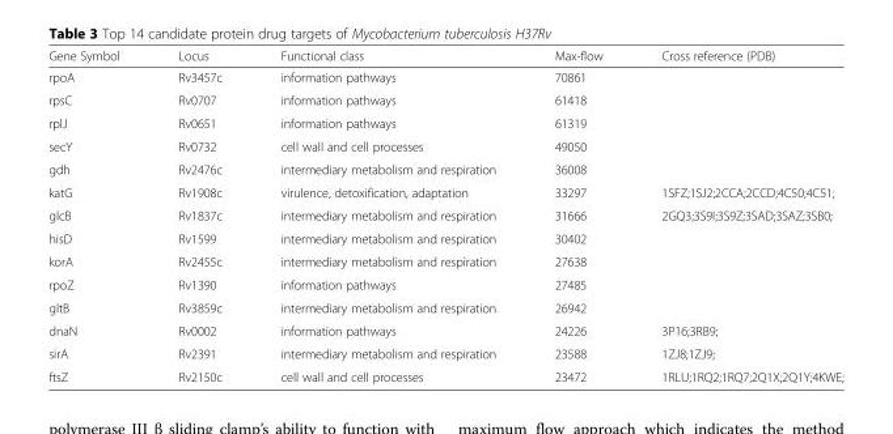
<table><thead><tr><td>Gene Symbol</td><td>Locus</td><td>Functional class</td><td>Max-flow</td><td>Cross reference (PDB)</td></tr></thead><tbody><tr><td>rpoA</td><td>Rv3457c</td><td>information pathways</td><td>70861</td><td></td></tr><tr><td>rpsC</td><td>Rv0707</td><td>information pathways</td><td>61418</td><td></td></tr><tr><td>rplJ</td><td>Rv0651</td><td>information pathways</td><td>61319</td><td></td></tr><tr><td>secY</td><td>Rv0732</td><td>cell wall and cell processes</td><td>49050</td><td></td></tr><tr><td>gdh</td><td>Rv2476c</td><td>intermediary metabolism and respiration</td><td>36008</td><td></td></tr><tr><td>katG</td><td>Rv1908c</td><td>virulence, detoxification, adaptation</td><td>33297</td><td>1SFZ;1SJ2;2CCA;2CCD;4C50;4C51;</td></tr><tr><td>glcB</td><td>Rv1837c</td><td>intermediary metabolism and respiration</td><td>31666</td><td>2GQ3;3S9I;3S9Z;3SAD;3SAZ;3SB0;</td></tr><tr><td>hisD</td><td>Rv1599</td><td>intermediary metabolism and respiration</td><td>30402</td><td></td></tr><tr><td>korA</td><td>Rv2455c</td><td>intermediary metabolism and respiration</td><td>27638</td><td></td></tr><tr><td>rpoZ</td><td>Rv1390</td><td>information pathways</td><td>27485</td><td></td></tr><tr><td>gltB</td><td>Rv3859c</td><td>intermediary metabolism and respiration</td><td>26942</td><td></td></tr><tr><td>dnaN</td><td>Rv0002</td><td>information pathways</td><td>24226</td><td>3P16;3RB9;</td></tr><tr><td>sirA</td><td>Rv2391</td><td>intermediary metabolism and respiration</td><td>23588</td><td>1ZJ8;1ZJ9;</td></tr><tr><td>ftsZ</td><td>Rv2150c</td><td>cell wall and cell processes</td><td>23472</td><td>1RLU;1RQ2;1RQ7;2Q1X;2Q1Y;4KWE;</td></tr></tbody></table>